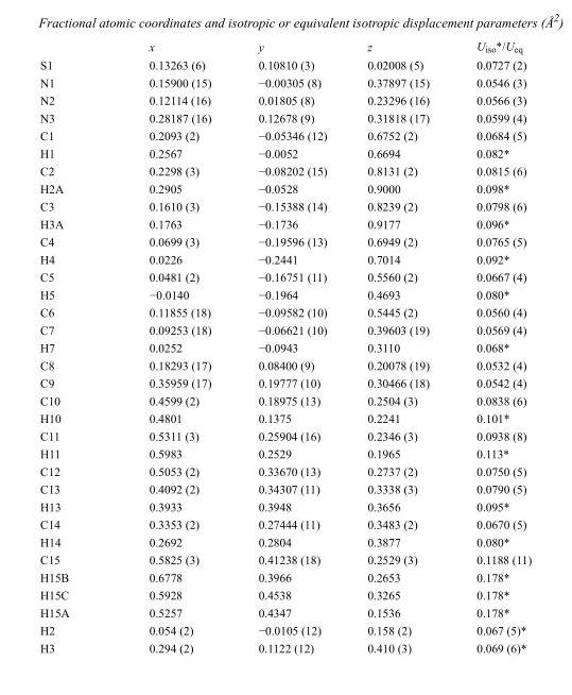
<table><thead><tr><td></td><td>x</td><td>y</td><td>z</td><td>U<sub>iso</sub>*/U<sub>eq</sub></td></tr></thead><tbody><tr><td>S1</td><td>0.13263 (6)</td><td>0.10810 (3)</td><td>0.02008 (5)</td><td>0.0727 (2)</td></tr><tr><td>N1</td><td>0.15900 (15)</td><td>−0.00305 (8)</td><td>0.37897 (15)</td><td>0.0546 (3)</td></tr><tr><td>N2</td><td>0.12114 (16)</td><td>0.01805 (8)</td><td>0.23296 (16)</td><td>0.0566 (3)</td></tr><tr><td>N3</td><td>0.28187 (16)</td><td>0.12678 (9)</td><td>0.31818 (17)</td><td>0.0599 (4)</td></tr><tr><td>C1</td><td>0.2093 (2)</td><td>−0.05346 (12)</td><td>0.6752 (2)</td><td>0.0684 (5)</td></tr><tr><td>H1</td><td>0.2567</td><td>−0.0052</td><td>0.6694</td><td>0.082*</td></tr><tr><td>C2</td><td>0.2298 (3)</td><td>−0.08202 (15)</td><td>0.8131 (2)</td><td>0.0815 (6)</td></tr><tr><td>H2A</td><td>0.2905</td><td>−0.0528</td><td>0.9000</td><td>0.098*</td></tr><tr><td>C3</td><td>0.1610 (3)</td><td>−0.15388 (14)</td><td>0.8239 (2)</td><td>0.0798 (6)</td></tr><tr><td>H3A</td><td>0.1763</td><td>−0.1736</td><td>0.9177</td><td>0.096*</td></tr><tr><td>C4</td><td>0.0699 (3)</td><td>−0.19596 (13)</td><td>0.6949 (2)</td><td>0.0765 (5)</td></tr><tr><td>H4</td><td>0.0226</td><td>−0.2441</td><td>0.7014</td><td>0.092*</td></tr><tr><td>C5</td><td>0.0481 (2)</td><td>−0.16751 (11)</td><td>0.5560 (2)</td><td>0.0667 (4)</td></tr><tr><td>H5</td><td>−0.0140</td><td>−0.1964</td><td>0.4693</td><td>0.080*</td></tr><tr><td>C6</td><td>0.11855 (18)</td><td>−0.09582 (10)</td><td>0.5445 (2)</td><td>0.0560 (4)</td></tr><tr><td>C7</td><td>0.09253 (18)</td><td>−0.06621 (10)</td><td>0.39603 (19)</td><td>0.0569 (4)</td></tr><tr><td>H7</td><td>0.0252</td><td>−0.0943</td><td>0.3110</td><td>0.068*</td></tr><tr><td>C8</td><td>0.18293 (17)</td><td>0.08400 (9)</td><td>0.20078 (19)</td><td>0.0532 (4)</td></tr><tr><td>C9</td><td>0.35959 (17)</td><td>0.19777 (10)</td><td>0.30466 (18)</td><td>0.0542 (4)</td></tr><tr><td>C10</td><td>0.4599 (2)</td><td>0.18975 (13)</td><td>0.2504 (3)</td><td>0.0838 (6)</td></tr><tr><td>H10</td><td>0.4801</td><td>0.1375</td><td>0.2241</td><td>0.101*</td></tr><tr><td>C11</td><td>0.5311 (3)</td><td>0.25904 (16)</td><td>0.2346 (3)</td><td>0.0938 (8)</td></tr><tr><td>H11</td><td>0.5983</td><td>0.2529</td><td>0.1965</td><td>0.113*</td></tr><tr><td>C12</td><td>0.5053 (2)</td><td>0.33670 (13)</td><td>0.2737 (2)</td><td>0.0750 (5)</td></tr><tr><td>C13</td><td>0.4092 (2)</td><td>0.34307 (11)</td><td>0.3338 (3)</td><td>0.0790 (5)</td></tr><tr><td>H13</td><td>0.3933</td><td>0.3948</td><td>0.3656</td><td>0.095*</td></tr><tr><td>C14</td><td>0.3353 (2)</td><td>0.27444 (11)</td><td>0.3483 (2)</td><td>0.0670 (5)</td></tr><tr><td>H14</td><td>0.2692</td><td>0.2804</td><td>0.3877</td><td>0.080*</td></tr><tr><td>C15</td><td>0.5825 (3)</td><td>0.41238 (18)</td><td>0.2529 (3)</td><td>0.1188 (11)</td></tr><tr><td>H15B</td><td>0.6778</td><td>0.3966</td><td>0.2653</td><td>0.178*</td></tr><tr><td>H15C</td><td>0.5928</td><td>0.4538</td><td>0.3265</td><td>0.178*</td></tr><tr><td>H15A</td><td>0.5257</td><td>0.4347</td><td>0.1536</td><td>0.178*</td></tr><tr><td>H2</td><td>0.054 (2)</td><td>−0.0105 (12)</td><td>0.158 (2)</td><td>0.067 (5)*</td></tr><tr><td>H3</td><td>0.294 (2)</td><td>0.1122 (12)</td><td>0.410 (3)</td><td>0.069 (6)*</td></tr></tbody></table>